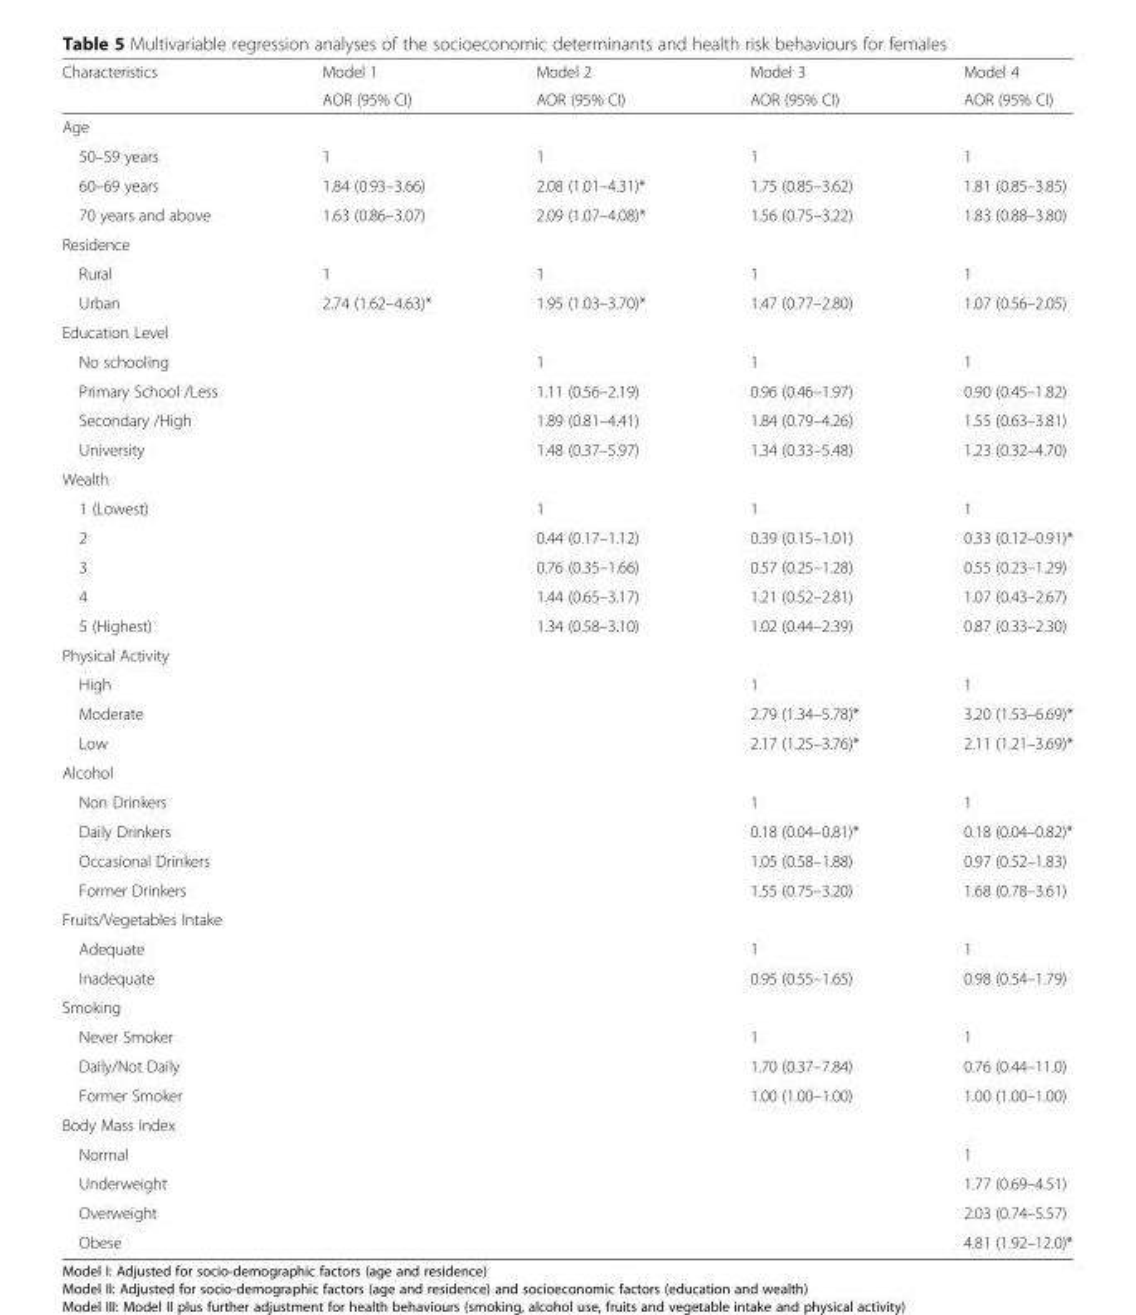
<table><thead><tr><td rowspan="2">Characteristics</td><td rowspan="2">Model 1 AOR (95% CI)</td><td rowspan="2">Model 2 AOR (95% CI)</td><td rowspan="2">Model 3 AOR (95% CI)</td><td rowspan="2">Model 4 AOR (95% CI)</td></tr><tr></tr></thead><tbody><tr><td colspan="5">Age</td></tr><tr><td>50–59 years</td><td>1</td><td>1</td><td>1</td><td>1</td></tr><tr><td>60–69 years</td><td>1.84 (0.93–3.66)</td><td>2.08 (1.01–4.31)*</td><td>1.75 (0.85–3.62)</td><td>1.81 (0.85–3.85)</td></tr><tr><td>70 years and above</td><td>1.63 (0.86–3.07)</td><td>2.09 (1.07–4.08)*</td><td>1.56 (0.75–3.22)</td><td>1.83 (0.88–3.80)</td></tr><tr><td colspan="5">Residence</td></tr><tr><td>Rural</td><td>1</td><td>1</td><td>1</td><td>1</td></tr><tr><td>Urban</td><td>2.74 (1.62–4.63)*</td><td>1.95 (1.03–3.70)*</td><td>1.47 (0.77–2.80)</td><td>1.07 (0.56–2.05)</td></tr><tr><td colspan="5">Education Level</td></tr><tr><td>No schooling</td><td></td><td>1</td><td>1</td><td>1</td></tr><tr><td>Primary School /Less</td><td></td><td>1.11 (0.56–2.19)</td><td>0.96 (0.46–1.97)</td><td>0.90 (0.45–1.82)</td></tr><tr><td>Secondary /High</td><td></td><td>1.89 (0.81–4.41)</td><td>1.84 (0.79–4.26)</td><td>1.55 (0.63–3.81)</td></tr><tr><td>University</td><td></td><td>1.48 (0.37–5.97)</td><td>1.34 (0.33–5.48)</td><td>1.23 (0.32–4.70)</td></tr><tr><td colspan="5">Wealth</td></tr><tr><td>1 (Lowest)</td><td></td><td>1</td><td>1</td><td>1</td></tr><tr><td>2</td><td></td><td>0.44 (0.17–1.12)</td><td>0.39 (0.15–1.01)</td><td>0.33 (0.12–0.91)*</td></tr><tr><td>3</td><td></td><td>0.76 (0.35–1.66)</td><td>0.57 (0.25–1.28)</td><td>0.55 (0.23–1.29)</td></tr><tr><td>4</td><td></td><td>1.44 (0.65–3.17)</td><td>1.21 (0.52–2.81)</td><td>1.07 (0.43–2.67)</td></tr><tr><td>5 (Highest)</td><td></td><td>1.34 (0.58–3.10)</td><td>1.02 (0.44–2.39)</td><td>0.87 (0.33–2.30)</td></tr><tr><td colspan="5">Physical Activity</td></tr><tr><td>High</td><td></td><td></td><td>1</td><td>1</td></tr><tr><td>Moderate</td><td></td><td></td><td>2.79 (1.34–5.78)*</td><td>3.20 (1.53–6.69)*</td></tr><tr><td>Low</td><td></td><td></td><td>2.17 (1.25–3.76)*</td><td>2.11 (1.21–3.69)*</td></tr><tr><td colspan="5">Alcohol</td></tr><tr><td>Non Drinkers</td><td></td><td></td><td>1</td><td>1</td></tr><tr><td>Daily Drinkers</td><td></td><td></td><td>0.18 (0.04–0.81)*</td><td>0.18 (0.04–0.82)*</td></tr><tr><td>Occasional Drinkers</td><td></td><td></td><td>1.05 (0.58–1.88)</td><td>0.97 (0.52–1.83)</td></tr><tr><td>Former Drinkers</td><td></td><td></td><td>1.55 (0.75–3.20)</td><td>1.68 (0.78–3.61)</td></tr><tr><td colspan="5">Fruits/Vegetables Intake</td></tr><tr><td>Adequate</td><td></td><td></td><td>1</td><td>1</td></tr><tr><td>Inadequate</td><td></td><td></td><td>0.95 (0.55–1.65)</td><td>0.98 (0.54–1.79)</td></tr><tr><td colspan="5">Smoking</td></tr><tr><td>Never Smoker</td><td></td><td></td><td>1</td><td>1</td></tr><tr><td>Daily/Not Daily</td><td></td><td></td><td>1.70 (0.37–7.84)</td><td>0.76 (0.44–11.0)</td></tr><tr><td>Former Smoker</td><td></td><td></td><td>1.00 (1.00–1.00)</td><td>1.00 (1.00–1.00)</td></tr><tr><td colspan="5">Body Mass Index</td></tr><tr><td>Normal</td><td></td><td></td><td></td><td>1</td></tr><tr><td>Underweight</td><td></td><td></td><td></td><td>1.77 (0.69–4.51)</td></tr><tr><td>Overweight</td><td></td><td></td><td></td><td>2.03 (0.74–5.57)</td></tr><tr><td>Obese</td><td></td><td></td><td></td><td>4.81 (1.92–12.0)*</td></tr></tbody></table>